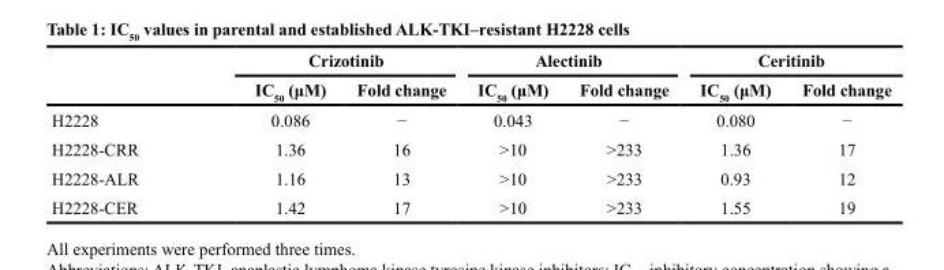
<table><thead><tr><td rowspan="2"></td><td colspan="2">Crizotinib</td><td colspan="2">Alectinib</td><td colspan="2">Ceritinib</td></tr><tr><td>IC<sub>50</sub> (μM)</td><td>Fold change</td><td>IC<sub>50</sub> (μM)</td><td>Fold change</td><td>IC<sub>50</sub> (μM)</td><td>Fold change</td></tr></thead><tbody><tr><td>H2228</td><td>0.086</td><td>−</td><td>0.043</td><td>−</td><td>0.080</td><td>−</td></tr><tr><td>H2228-CRR</td><td>1.36</td><td>16</td><td>&gt;10</td><td>&gt;233</td><td>1.36</td><td>17</td></tr><tr><td>H2228-ALR</td><td>1.16</td><td>13</td><td>&gt;10</td><td>&gt;233</td><td>0.93</td><td>12</td></tr><tr><td>H2228-CER</td><td>1.42</td><td>17</td><td>&gt;10</td><td>&gt;233</td><td>1.55</td><td>19</td></tr></tbody></table>